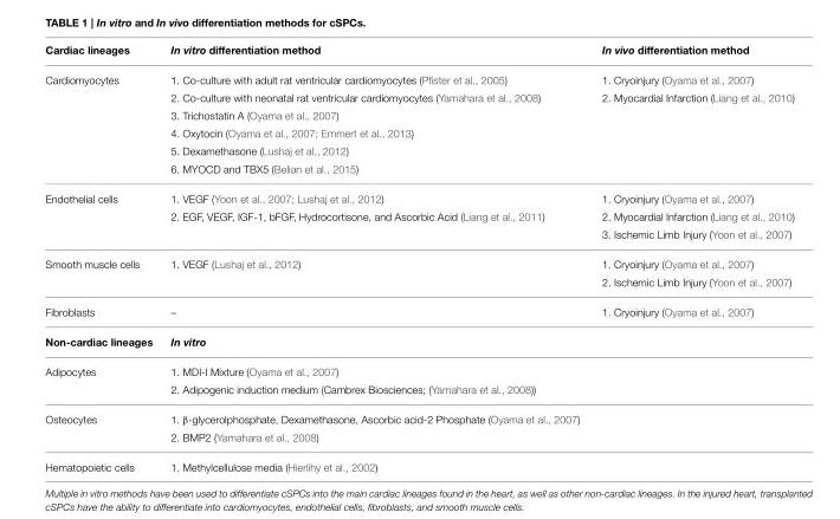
<table><thead><tr><td>Cardiac lineages</td><td>In vitro differentiation method</td><td>In vivo differentiation method</td></tr></thead><tbody><tr><td rowspan="6">Cardiomyocytes</td><td>1. Co-culture with adult rat ventricular cardiomyocytes (Pfister et al., 2005)</td><td>1. Cryoinjury (Oyama et al., 2007)</td></tr><tr><td>2. Co-culture with neonatal rat ventricular cardiomyocytes (Yamahara et al., 2008)</td><td>2. Myocardial Infarction (Liang et al., 2010)</td></tr><tr><td>3. Trichostatin A (Oyama et al., 2007)</td><td></td></tr><tr><td>4. Oxytocin (Oyama et al., 2007; Emmert et al., 2013)</td><td></td></tr><tr><td>5. Dexamethasone (Lushaj et al., 2012)</td><td></td></tr><tr><td>6. MYOCD and TBX5 (Belian et al., 2015)</td><td></td></tr><tr><td rowspan="3">Endothelial cells</td><td>1. VEGF (Yoon et al., 2007; Lushaj et al., 2012)</td><td>1. Cryoinjury (Oyama et al., 2007)</td></tr><tr><td>2. EGF, VEGF, IGF-1, bFGF, Hydrocortisone, and Ascorbic Acid (Liang et al., 2011)</td><td>2. Myocardial Infarction (Liang et al., 2010)</td></tr><tr><td></td><td>3. Ischemic Limb Injury (Yoon et al., 2007)</td></tr><tr><td rowspan="2">Smooth muscle cells</td><td>1. VEGF (Lushaj et al., 2012)</td><td>1. Cryoinjury (Oyama et al., 2007)</td></tr><tr><td></td><td>2. Ischemic Limb Injury (Yoon et al., 2007)</td></tr><tr><td>Fibroblasts</td><td>–</td><td>1. Cryoinjury (Oyama et al., 2007)</td></tr><tr><td>Non-cardiac lineages</td><td>In vitro</td><td></td></tr><tr><td rowspan="2">Adipocytes</td><td>1. MDI-I Mixture (Oyama et al., 2007)</td><td></td></tr><tr><td>2. Adipogenic induction medium (Cambrex Biosciences; (Yamahara et al., 2008))</td><td></td></tr><tr><td rowspan="2">Osteocytes</td><td>1. β-glycerolphosphate, Dexamethasone, Ascorbic acid-2 Phosphate (Oyama et al., 2007)</td><td></td></tr><tr><td>2. BMP2 (Yamahara et al., 2008)</td><td></td></tr><tr><td>Hematopoietic cells</td><td>1. Methylcellulose media (Hierlihy et al., 2002)</td><td></td></tr></tbody></table>